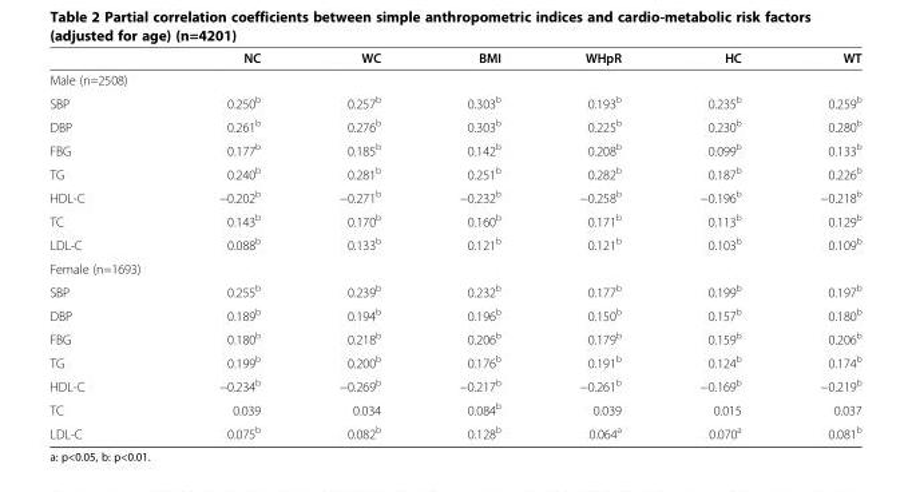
<table><thead><tr><td></td><td>NC</td><td>WC</td><td>BMI</td><td>WHpR</td><td>HC</td><td>WT</td></tr></thead><tbody><tr><td colspan="7">Male (n=2508)</td></tr><tr><td>SBP</td><td>0.250<sup>b</sup></td><td>0.257<sup>b</sup></td><td>0.303<sup>b</sup></td><td>0.193<sup>b</sup></td><td>0.235<sup>b</sup></td><td>0.259<sup>b</sup></td></tr><tr><td>DBP</td><td>0.261<sup>b</sup></td><td>0.276<sup>b</sup></td><td>0.303<sup>b</sup></td><td>0.225<sup>b</sup></td><td>0.230<sup>b</sup></td><td>0.280<sup>b</sup></td></tr><tr><td>FBG</td><td>0.177<sup>b</sup></td><td>0.185<sup>b</sup></td><td>0.142<sup>b</sup></td><td>0.208<sup>b</sup></td><td>0.099<sup>b</sup></td><td>0.133<sup>b</sup></td></tr><tr><td>TG</td><td>0.240<sup>b</sup></td><td>0.281<sup>b</sup></td><td>0.251<sup>b</sup></td><td>0.282<sup>b</sup></td><td>0.187<sup>b</sup></td><td>0.226<sup>b</sup></td></tr><tr><td>HDL-C</td><td>−0.202<sup>b</sup></td><td>−0.271<sup>b</sup></td><td>−0.232<sup>b</sup></td><td>−0.258<sup>b</sup></td><td>−0.196<sup>b</sup></td><td>−0.218<sup>b</sup></td></tr><tr><td>TC</td><td>0.143<sup>b</sup></td><td>0.170<sup>b</sup></td><td>0.160<sup>b</sup></td><td>0.171<sup>b</sup></td><td>0.113<sup>b</sup></td><td>0.129<sup>b</sup></td></tr><tr><td>LDL-C</td><td>0.088<sup>b</sup></td><td>0.133<sup>b</sup></td><td>0.121<sup>b</sup></td><td>0.121<sup>b</sup></td><td>0.103<sup>b</sup></td><td>0.109<sup>b</sup></td></tr><tr><td colspan="7">Female (n=1693)</td></tr><tr><td>SBP</td><td>0.255<sup>b</sup></td><td>0.239<sup>b</sup></td><td>0.232<sup>b</sup></td><td>0.177<sup>b</sup></td><td>0.199<sup>b</sup></td><td>0.197<sup>b</sup></td></tr><tr><td>DBP</td><td>0.189<sup>b</sup></td><td>0.194<sup>b</sup></td><td>0.196<sup>b</sup></td><td>0.150<sup>b</sup></td><td>0.157<sup>b</sup></td><td>0.180<sup>b</sup></td></tr><tr><td>FBG</td><td>0.180<sup>b</sup></td><td>0.218<sup>b</sup></td><td>0.206<sup>b</sup></td><td>0.179<sup>b</sup></td><td>0.159<sup>b</sup></td><td>0.206<sup>b</sup></td></tr><tr><td>TG</td><td>0.199<sup>b</sup></td><td>0.200<sup>b</sup></td><td>0.176<sup>b</sup></td><td>0.191<sup>b</sup></td><td>0.124<sup>b</sup></td><td>0.174<sup>b</sup></td></tr><tr><td>HDL-C</td><td>−0.234<sup>b</sup></td><td>−0.269<sup>b</sup></td><td>−0.217<sup>b</sup></td><td>−0.261<sup>b</sup></td><td>−0.169<sup>b</sup></td><td>−0.219<sup>b</sup></td></tr><tr><td>TC</td><td>0.039</td><td>0.034</td><td>0.084<sup>b</sup></td><td>0.039</td><td>0.015</td><td>0.037</td></tr><tr><td>LDL-C</td><td>0.075<sup>b</sup></td><td>0.082<sup>b</sup></td><td>0.128<sup>b</sup></td><td>0.064<sup>a</sup></td><td>0.070<sup>a</sup></td><td>0.081<sup>b</sup></td></tr></tbody></table>